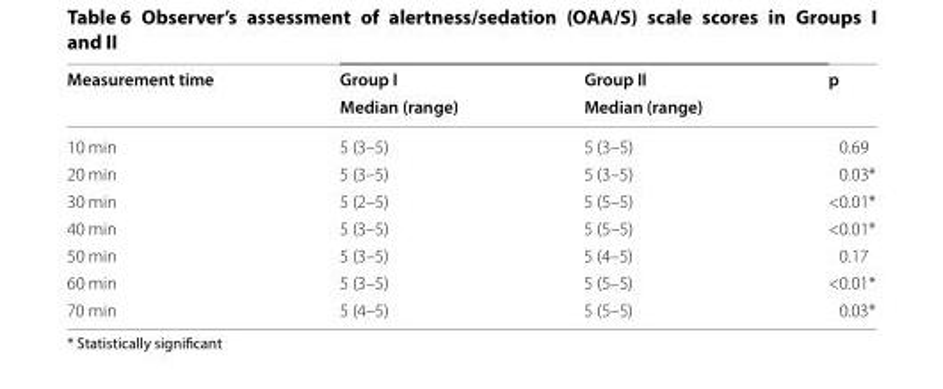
<table><thead><tr><td rowspan="2">Measurement time</td><td rowspan="2">Group I Median (range)</td><td rowspan="2">Group II Median (range)</td><td rowspan="2">p</td></tr><tr></tr></thead><tbody><tr><td>10 min</td><td>5 (3–5)</td><td>5 (3–5)</td><td>0.69</td></tr><tr><td>20 min</td><td>5 (3–5)</td><td>5 (3–5)</td><td>0.03*</td></tr><tr><td>30 min</td><td>5 (2–5)</td><td>5 (5–5)</td><td>&lt;0.01*</td></tr><tr><td>40 min</td><td>5 (3–5)</td><td>5 (5–5)</td><td>&lt;0.01*</td></tr><tr><td>50 min</td><td>5 (3–5)</td><td>5 (4–5)</td><td>0.17</td></tr><tr><td>60 min</td><td>5 (3–5)</td><td>5 (5–5)</td><td>&lt;0.01*</td></tr><tr><td>70 min</td><td>5 (4–5)</td><td>5 (5–5)</td><td>0.03*</td></tr></tbody></table>